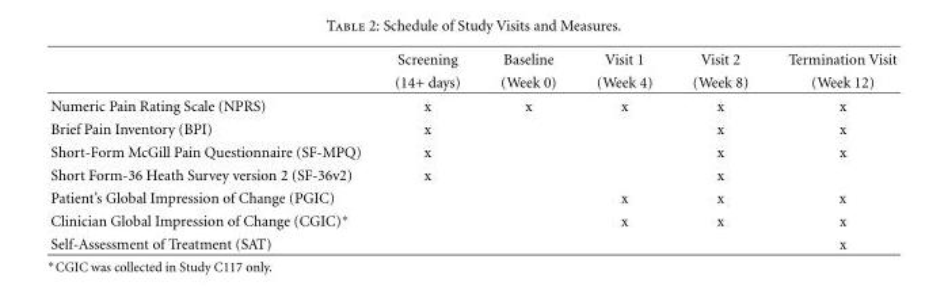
<table><thead><tr><td rowspan="2"></td><td rowspan="2">Screening (14+ days)</td><td rowspan="2">Baseline (Week 0)</td><td rowspan="2">Visit 1 (Week 4)</td><td rowspan="2">Visit 2 (Week 8)</td><td rowspan="2">Termination Visit (Week 12)</td></tr><tr></tr></thead><tbody><tr><td>Numeric Pain Rating Scale (NPRS)</td><td>x</td><td>x</td><td>x</td><td>x</td><td>x</td></tr><tr><td>Brief Pain Inventory (BPI)</td><td>x</td><td></td><td></td><td>x</td><td>x</td></tr><tr><td>Short-Form McGill Pain Questionnaire (SF-MPQ)</td><td>x</td><td></td><td></td><td>x</td><td>x</td></tr><tr><td>Short Form-36 Heath Survey version 2 (SF-36v2)</td><td>x</td><td></td><td></td><td>x</td><td></td></tr><tr><td>Patient’s Global Impression of Change (PGIC)</td><td></td><td></td><td>x</td><td>x</td><td>x</td></tr><tr><td>Clinician Global Impression of Change (CGIC)∗</td><td></td><td></td><td>x</td><td>x</td><td>x</td></tr><tr><td>Self-Assessment of Treatment (SAT)</td><td></td><td></td><td></td><td></td><td>x</td></tr></tbody></table>